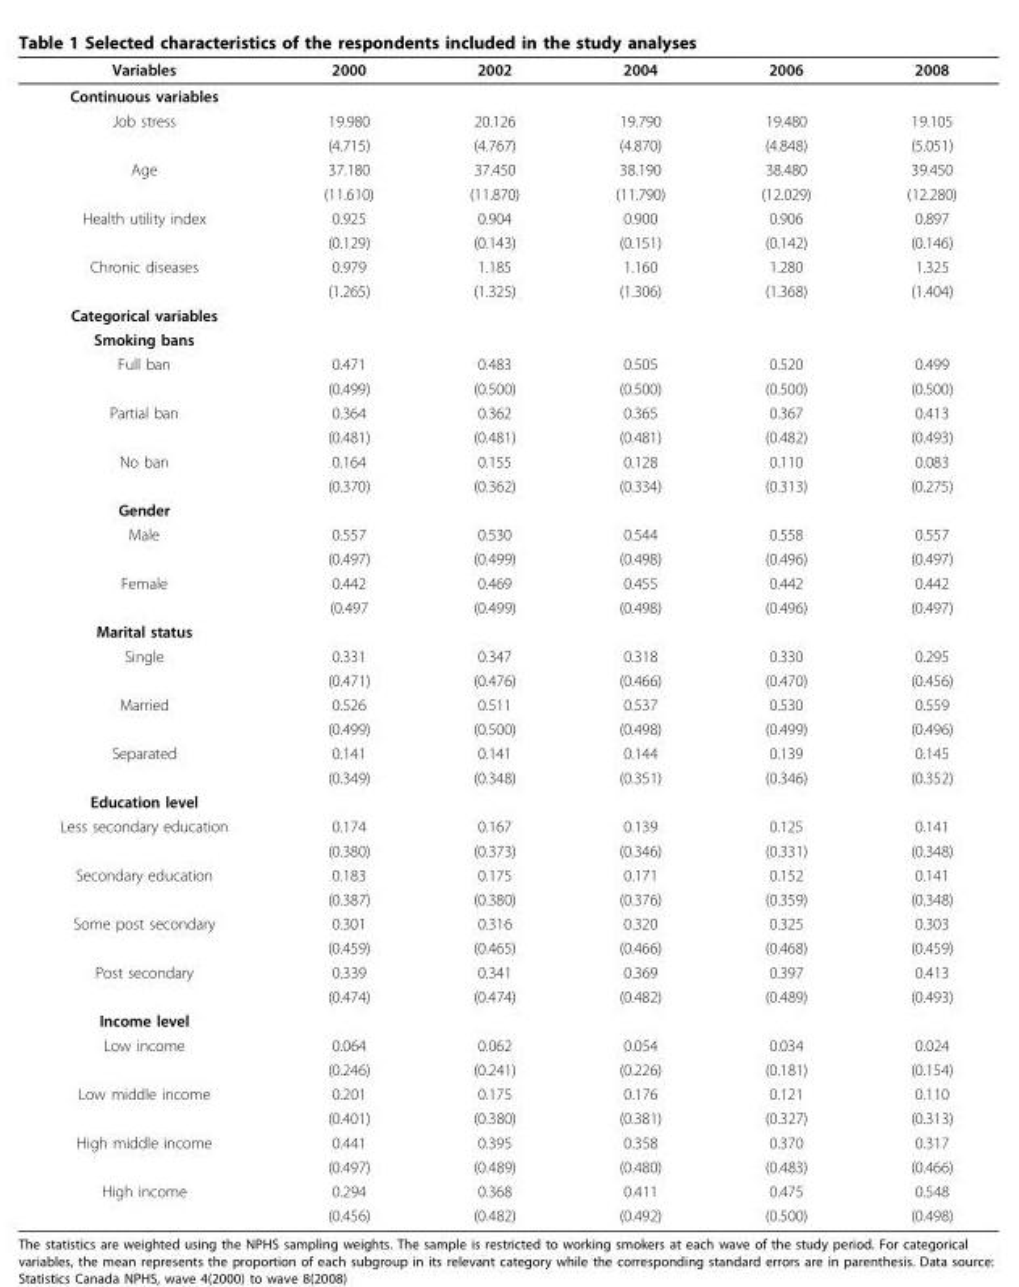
<table><thead><tr><td>Variables</td><td>2000</td><td>2002</td><td>2004</td><td>2006</td><td>2008</td></tr></thead><tbody><tr><td colspan="6">Continuous variables</td></tr><tr><td rowspan="2">Job stress</td><td>19.980</td><td>20.126</td><td>19.790</td><td>19.480</td><td>19.105</td></tr><tr><td>(4.715)</td><td>(4.767)</td><td>(4.870)</td><td>(4.848)</td><td>(5.051)</td></tr><tr><td rowspan="2">Age</td><td>37.180</td><td>37.450</td><td>38.190</td><td>38.480</td><td>39.450</td></tr><tr><td>(11.610)</td><td>(11.870)</td><td>(11.790)</td><td>(12.029)</td><td>(12.280)</td></tr><tr><td rowspan="2">Health utility index</td><td>0.925</td><td>0.904</td><td>0.900</td><td>0.906</td><td>0.897</td></tr><tr><td>(0.129)</td><td>(0.143)</td><td>(0.151)</td><td>(0.142)</td><td>(0.146)</td></tr><tr><td rowspan="2">Chronic diseases</td><td>0.979</td><td>1.185</td><td>1.160</td><td>1.280</td><td>1.325</td></tr><tr><td>(1.265)</td><td>(1.325)</td><td>(1.306)</td><td>(1.368)</td><td>(1.404)</td></tr><tr><td colspan="6">Categorical variables</td></tr><tr><td colspan="6">Smoking bans</td></tr><tr><td rowspan="2">Full ban</td><td>0.471</td><td>0.483</td><td>0.505</td><td>0.520</td><td>0.499</td></tr><tr><td>(0.499)</td><td>(0.500)</td><td>(0.500)</td><td>(0.500)</td><td>(0.500)</td></tr><tr><td rowspan="2">Partial ban</td><td>0.364</td><td>0.362</td><td>0.365</td><td>0.367</td><td>0.413</td></tr><tr><td>(0.481)</td><td>(0.481)</td><td>(0.481)</td><td>(0.482)</td><td>(0.493)</td></tr><tr><td rowspan="2">No ban</td><td>0.164</td><td>0.155</td><td>0.128</td><td>0.110</td><td>0.083</td></tr><tr><td>(0.370)</td><td>(0.362)</td><td>(0.334)</td><td>(0.313)</td><td>(0.275)</td></tr><tr><td colspan="6">Gender</td></tr><tr><td rowspan="2">Male</td><td>0.557</td><td>0.530</td><td>0.544</td><td>0.558</td><td>0.557</td></tr><tr><td>(0.497)</td><td>(0.499)</td><td>(0.498)</td><td>(0.496)</td><td>(0.497)</td></tr><tr><td rowspan="2">Female</td><td>0.442</td><td>0.469</td><td>0.455</td><td>0.442</td><td>0.442</td></tr><tr><td>(0.497</td><td>(0.499)</td><td>(0.498)</td><td>(0.496)</td><td>(0.497)</td></tr><tr><td colspan="6">Marital status</td></tr><tr><td rowspan="2">Single</td><td>0.331</td><td>0.347</td><td>0.318</td><td>0.330</td><td>0.295</td></tr><tr><td>(0.471)</td><td>(0.476)</td><td>(0.466)</td><td>(0.470)</td><td>(0.456)</td></tr><tr><td rowspan="2">Married</td><td>0.526</td><td>0.511</td><td>0.537</td><td>0.530</td><td>0.559</td></tr><tr><td>(0.499)</td><td>(0.500)</td><td>(0.498)</td><td>(0.499)</td><td>(0.496)</td></tr><tr><td rowspan="2">Separated</td><td>0.141</td><td>0.141</td><td>0.144</td><td>0.139</td><td>0.145</td></tr><tr><td>(0.349)</td><td>(0.348)</td><td>(0.351)</td><td>(0.346)</td><td>(0.352)</td></tr><tr><td colspan="6">Education level</td></tr><tr><td rowspan="2">Less secondary education</td><td>0.174</td><td>0.167</td><td>0.139</td><td>0.125</td><td>0.141</td></tr><tr><td>(0.380)</td><td>(0.373)</td><td>(0.346)</td><td>(0.331)</td><td>(0.348)</td></tr><tr><td rowspan="2">Secondary education</td><td>0.183</td><td>0.175</td><td>0.171</td><td>0.152</td><td>0.141</td></tr><tr><td>(0.387)</td><td>(0.380)</td><td>(0.376)</td><td>(0.359)</td><td>(0.348)</td></tr><tr><td rowspan="2">Some post secondary</td><td>0.301</td><td>0.316</td><td>0.320</td><td>0.325</td><td>0.303</td></tr><tr><td>(0.459)</td><td>(0.465)</td><td>(0.466)</td><td>(0.468)</td><td>(0.459)</td></tr><tr><td rowspan="2">Post secondary</td><td>0.339</td><td>0.341</td><td>0.369</td><td>0.397</td><td>0.413</td></tr><tr><td>(0.474)</td><td>(0.474)</td><td>(0.482)</td><td>(0.489)</td><td>(0.493)</td></tr><tr><td colspan="6">Income level</td></tr><tr><td rowspan="2">Low income</td><td>0.064</td><td>0.062</td><td>0.054</td><td>0.034</td><td>0.024</td></tr><tr><td>(0.246)</td><td>(0.241)</td><td>(0.226)</td><td>(0.181)</td><td>(0.154)</td></tr><tr><td rowspan="2">Low middle income</td><td>0.201</td><td>0.175</td><td>0.176</td><td>0.121</td><td>0.110</td></tr><tr><td>(0.401)</td><td>(0.380)</td><td>(0.381)</td><td>(0.327)</td><td>(0.313)</td></tr><tr><td rowspan="2">High middle income</td><td>0.441</td><td>0.395</td><td>0.358</td><td>0.370</td><td>0.317</td></tr><tr><td>(0.497)</td><td>(0.489)</td><td>(0.480)</td><td>(0.483)</td><td>(0.466)</td></tr><tr><td rowspan="2">High income</td><td>0.294</td><td>0.368</td><td>0.411</td><td>0.475</td><td>0.548</td></tr><tr><td>(0.456)</td><td>(0.482)</td><td>(0.492)</td><td>(0.500)</td><td>(0.498)</td></tr></tbody></table>